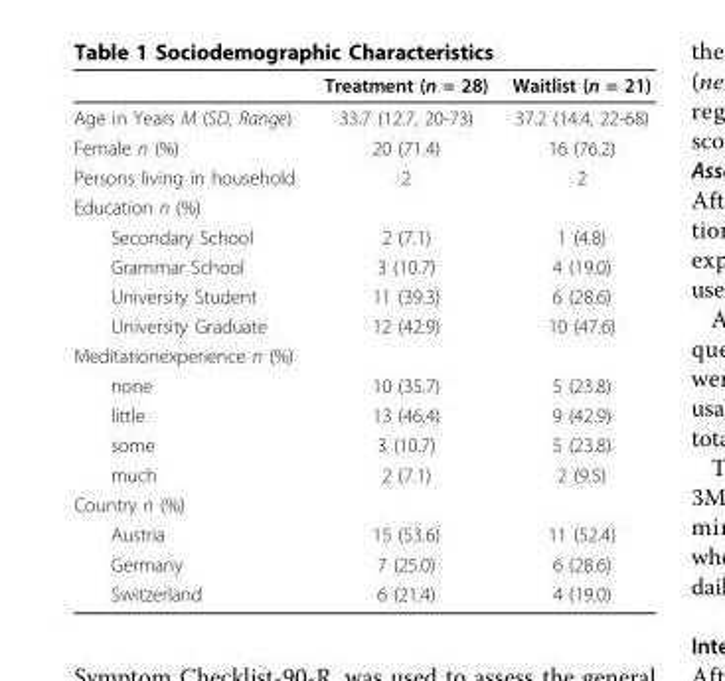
<table><thead><tr><td></td><td>Treatment (n = 28)</td><td>Waitlist (n = 21)</td></tr></thead><tbody><tr><td>Age in Years M (SD, Range)</td><td>33.7 (12.7, 20-73)</td><td>37.2 (14.4, 22-68)</td></tr><tr><td>Female n (%)</td><td>20 (71.4)</td><td>16 (76.2)</td></tr><tr><td>Persons living in household</td><td>2</td><td>2</td></tr><tr><td colspan="3">Education n (%)</td></tr><tr><td>Secondary School</td><td>2 (7.1)</td><td>1 (4.8)</td></tr><tr><td>Grammar School</td><td>3 (10.7)</td><td>4 (19.0)</td></tr><tr><td>University Student</td><td>11 (39.3)</td><td>6 (28.6)</td></tr><tr><td>University Graduate</td><td>12 (42.9)</td><td>10 (47.6)</td></tr><tr><td colspan="3">Meditationexperience n (%)</td></tr><tr><td>none</td><td>10 (35.7)</td><td>5 (23.8)</td></tr><tr><td>little</td><td>13 (46.4)</td><td>9 (42.9)</td></tr><tr><td>some</td><td>3 (10.7)</td><td>5 (23.8)</td></tr><tr><td>much</td><td>2 (7.1)</td><td>2 (9.5)</td></tr><tr><td colspan="3">Country n (%)</td></tr><tr><td>Austria</td><td>15 (53.6)</td><td>11 (52.4)</td></tr><tr><td>Germany</td><td>7 (25.0)</td><td>6 (28.6)</td></tr><tr><td>Switzerland</td><td>6 (21.4)</td><td>4 (19.0)</td></tr></tbody></table>